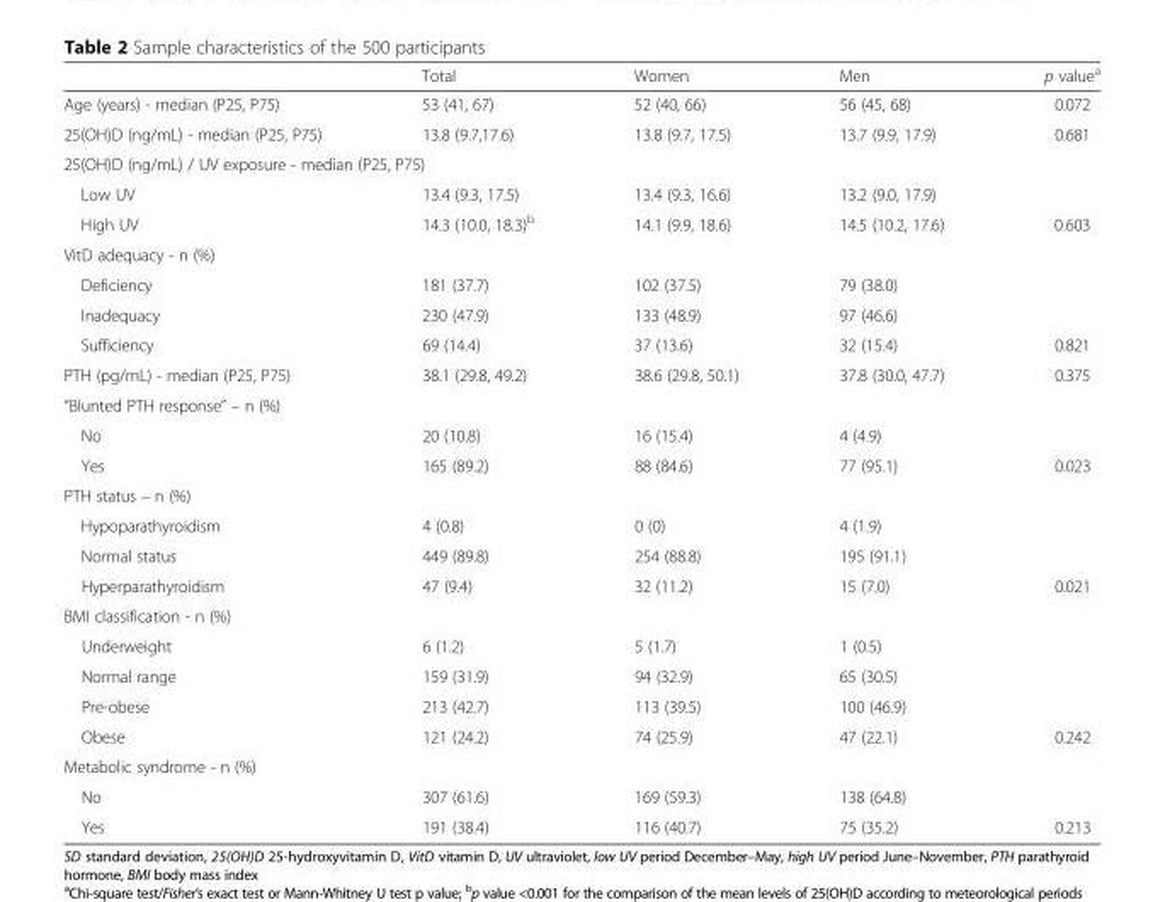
<table><thead><tr><td></td><td>Total</td><td>Women</td><td>Men</td><td>p value<sup>a</sup></td></tr></thead><tbody><tr><td>Age (years) - median (P25, P75)</td><td>53 (41, 67)</td><td>52 (40, 66)</td><td>56 (45, 68)</td><td>0.072</td></tr><tr><td>25(OH)D (ng/mL) - median (P25, P75)</td><td>13.8 (9.7,17.6)</td><td>13.8 (9.7, 17.5)</td><td>13.7 (9.9, 17.9)</td><td>0.681</td></tr><tr><td colspan="5">25(OH)D (ng/mL) / UV exposure - median (P25, P75)</td></tr><tr><td>Low UV</td><td>13.4 (9.3, 17.5)</td><td>13.4 (9.3, 16.6)</td><td>13.2 (9.0, 17.9)</td><td></td></tr><tr><td>High UV</td><td>14.3 (10.0, 18.3)<sup>b</sup></td><td>14.1 (9.9, 18.6)</td><td>14.5 (10.2, 17.6)</td><td>0.603</td></tr><tr><td colspan="5">VitD adequacy - n (%)</td></tr><tr><td>Deficiency</td><td>181 (37.7)</td><td>102 (37.5)</td><td>79 (38.0)</td><td></td></tr><tr><td>Inadequacy</td><td>230 (47.9)</td><td>133 (48.9)</td><td>97 (46.6)</td><td></td></tr><tr><td>Sufficiency</td><td>69 (14.4)</td><td>37 (13.6)</td><td>32 (15.4)</td><td>0.821</td></tr><tr><td>PTH (pg/mL) - median (P25, P75)</td><td>38.1 (29.8, 49.2)</td><td>38.6 (29.8, 50.1)</td><td>37.8 (30.0, 47.7)</td><td>0.375</td></tr><tr><td colspan="5">“Blunted PTH response” – n (%)</td></tr><tr><td>No</td><td>20 (10.8)</td><td>16 (15.4)</td><td>4 (4.9)</td><td></td></tr><tr><td>Yes</td><td>165 (89.2)</td><td>88 (84.6)</td><td>77 (95.1)</td><td>0.023</td></tr><tr><td colspan="5">PTH status – n (%)</td></tr><tr><td>Hypoparathyroidism</td><td>4 (0.8)</td><td>0 (0)</td><td>4 (1.9)</td><td></td></tr><tr><td>Normal status</td><td>449 (89.8)</td><td>254 (88.8)</td><td>195 (91.1)</td><td></td></tr><tr><td>Hyperparathyroidism</td><td>47 (9.4)</td><td>32 (11.2)</td><td>15 (7.0)</td><td>0.021</td></tr><tr><td colspan="5">BMI classification - n (%)</td></tr><tr><td>Underweight</td><td>6 (1.2)</td><td>5 (1.7)</td><td>1 (0.5)</td><td></td></tr><tr><td>Normal range</td><td>159 (31.9)</td><td>94 (32.9)</td><td>65 (30.5)</td><td></td></tr><tr><td>Pre-obese</td><td>213 (42.7)</td><td>113 (39.5)</td><td>100 (46.9)</td><td></td></tr><tr><td>Obese</td><td>121 (24.2)</td><td>74 (25.9)</td><td>47 (22.1)</td><td>0.242</td></tr><tr><td colspan="5">Metabolic syndrome - n (%)</td></tr><tr><td>No</td><td>307 (61.6)</td><td>169 (59.3)</td><td>138 (64.8)</td><td></td></tr><tr><td>Yes</td><td>191 (38.4)</td><td>116 (40.7)</td><td>75 (35.2)</td><td>0.213</td></tr></tbody></table>